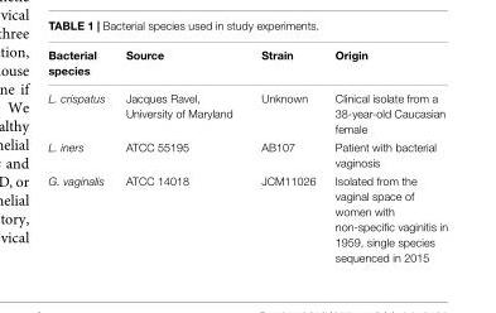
<table><thead><tr><td>Bacterial species</td><td>Source</td><td>Strain</td><td>Origin</td></tr></thead><tbody><tr><td>L. crispatus</td><td>Jacques Ravel, University of Maryland</td><td>Unknown</td><td>Clinical isolate from a 38-year-old Caucasian female</td></tr><tr><td>L. iners</td><td>ATCC 55195</td><td>AB107</td><td>Patient with bacterial vaginosis</td></tr><tr><td>G. vaginalis</td><td>ATCC 14018</td><td>JCM11026</td><td>Isolated from the vaginal space of women with non-specific vaginitis in 1959, single species sequenced in 2015</td></tr></tbody></table>